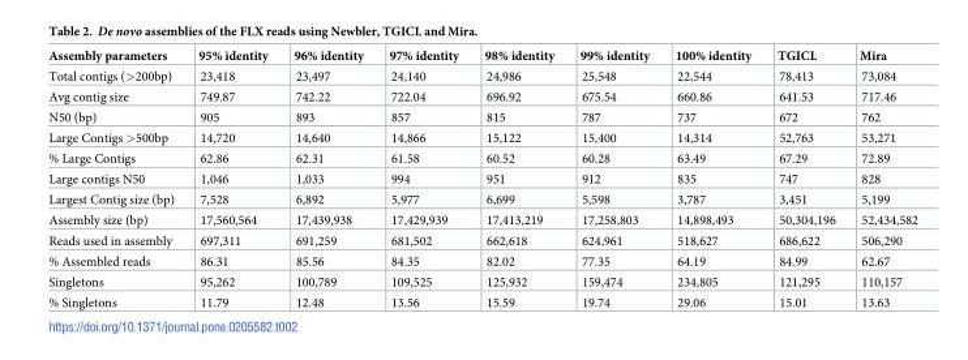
<table><thead><tr><td>Assembly parameters</td><td>95% identity</td><td>96% identity</td><td>97% identity</td><td>98% identity</td><td>99% identity</td><td>100% identity</td><td>TGICL</td><td>Mira</td></tr></thead><tbody><tr><td>Total contigs (&gt;200bp)</td><td>23,418</td><td>23,497</td><td>24,140</td><td>24,986</td><td>25,548</td><td>22,544</td><td>78,413</td><td>73,084</td></tr><tr><td>Avg contig size</td><td>749.87</td><td>742.22</td><td>722.04</td><td>696.92</td><td>675.54</td><td>660.86</td><td>641.53</td><td>717.46</td></tr><tr><td>N50 (bp)</td><td>905</td><td>893</td><td>857</td><td>815</td><td>787</td><td>737</td><td>672</td><td>762</td></tr><tr><td>Large Contigs &gt;500bp</td><td>14,720</td><td>14,640</td><td>14,866</td><td>15,122</td><td>15,400</td><td>14,314</td><td>52,763</td><td>53,271</td></tr><tr><td>% Large Contigs</td><td>62.86</td><td>62.31</td><td>61.58</td><td>60.52</td><td>60.28</td><td>63.49</td><td>67.29</td><td>72.89</td></tr><tr><td>Large contigs N50</td><td>1,046</td><td>1,033</td><td>994</td><td>951</td><td>912</td><td>835</td><td>747</td><td>828</td></tr><tr><td>Largest Contig size (bp)</td><td>7,528</td><td>6,892</td><td>5,977</td><td>6,699</td><td>5,598</td><td>3,787</td><td>3,451</td><td>5,199</td></tr><tr><td>Assembly size (bp)</td><td>17,560,564</td><td>17,439,938</td><td>17,429,939</td><td>17,413,219</td><td>17,258,803</td><td>14,898,493</td><td>50,304,196</td><td>52,434,582</td></tr><tr><td>Reads used in assembly</td><td>697,311</td><td>691,259</td><td>681,502</td><td>662,618</td><td>624,961</td><td>518,627</td><td>686,622</td><td>506,290</td></tr><tr><td>% Assembled reads</td><td>86.31</td><td>85.56</td><td>84.35</td><td>82.02</td><td>77.35</td><td>64.19</td><td>84.99</td><td>62.67</td></tr><tr><td>Singletons</td><td>95,262</td><td>100,789</td><td>109,525</td><td>125,932</td><td>159,474</td><td>234,805</td><td>121,295</td><td>110,157</td></tr><tr><td>% Singletons</td><td>11.79</td><td>12.48</td><td>13.56</td><td>15.59</td><td>19.74</td><td>29.06</td><td>15.01</td><td>13.63</td></tr></tbody></table>